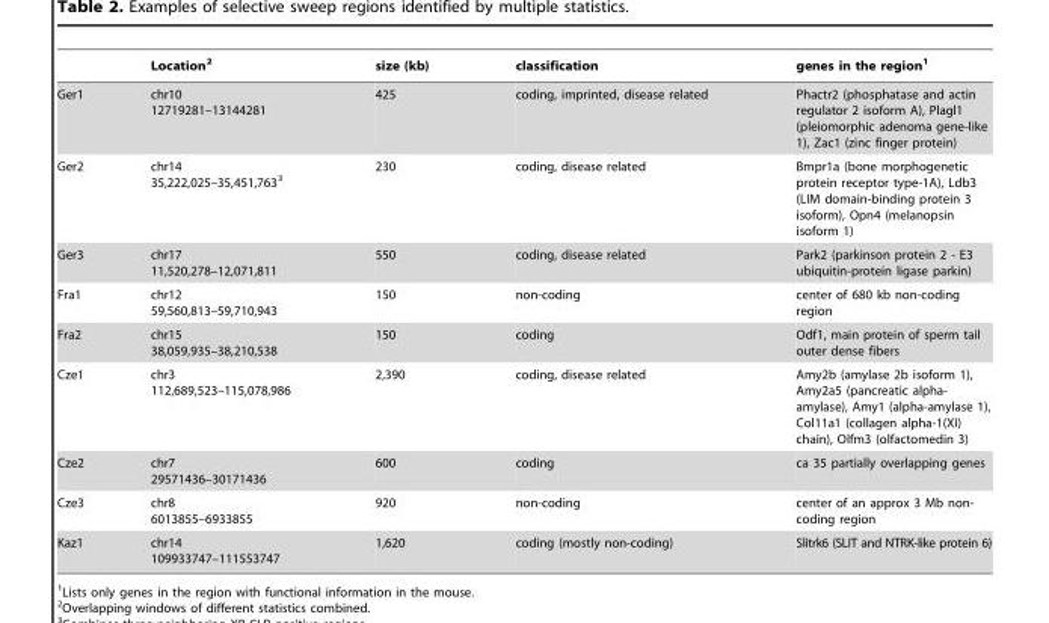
<table><thead><tr><td></td><td>Location<sup>2</sup></td><td>size (kb)</td><td>classification</td><td>genes in the region<sup>1</sup></td></tr></thead><tbody><tr><td>Ger1</td><td>chr10 12719281–13144281</td><td>425</td><td>coding, imprinted, disease related</td><td>Phactr2 (phosphatase and actin regulator 2 isoform A), Plagl1 (pleiomorphic adenoma gene-like 1), Zac1 (zinc finger protein)</td></tr><tr><td>Ger2</td><td>chr14 35,222,025–35,451,763<sup>3</sup></td><td>230</td><td>coding, disease related</td><td>Bmpr1a (bone morphogenetic protein receptor type-1A), Ldb3 (LIM domain-binding protein 3 isoform), Opn4 (melanopsin isoform 1)</td></tr><tr><td>Ger3</td><td>chr17 11,520,278–12,071,811</td><td>550</td><td>coding, disease related</td><td>Park2 (parkinson protein 2 - E3 ubiquitin-protein ligase parkin)</td></tr><tr><td>Fra1</td><td>chr12 59,560,813–59,710,943</td><td>150</td><td>non-coding</td><td>center of 680 kb non-coding region</td></tr><tr><td>Fra2</td><td>chr15 38,059,935–38,210,538</td><td>150</td><td>coding</td><td>Odf1, main protein of sperm tail outer dense fibers</td></tr><tr><td>Cze1</td><td>chr3 112,689,523–115,078,986</td><td>2,390</td><td>coding, disease related</td><td>Amy2b (amylase 2b isoform 1), Amy2a5 (pancreatic alpha- amylase), Amy1 (alpha-amylase 1), Col11a1 (collagen alpha-1(XI) chain), Olfm3 (olfactomedin 3)</td></tr><tr><td>Cze2</td><td>chr7 29571436–30171436</td><td>600</td><td>coding</td><td>ca 35 partially overlapping genes</td></tr><tr><td>Cze3</td><td>chr8 6013855–6933855</td><td>920</td><td>non-coding</td><td>center of an approx 3 Mb non- coding region</td></tr><tr><td>Kaz1</td><td>chr14 109933747–111553747</td><td>1,620</td><td>coding (mostly non-coding)</td><td>Slitrk6 (SLIT and NTRK-like protein 6)</td></tr></tbody></table>